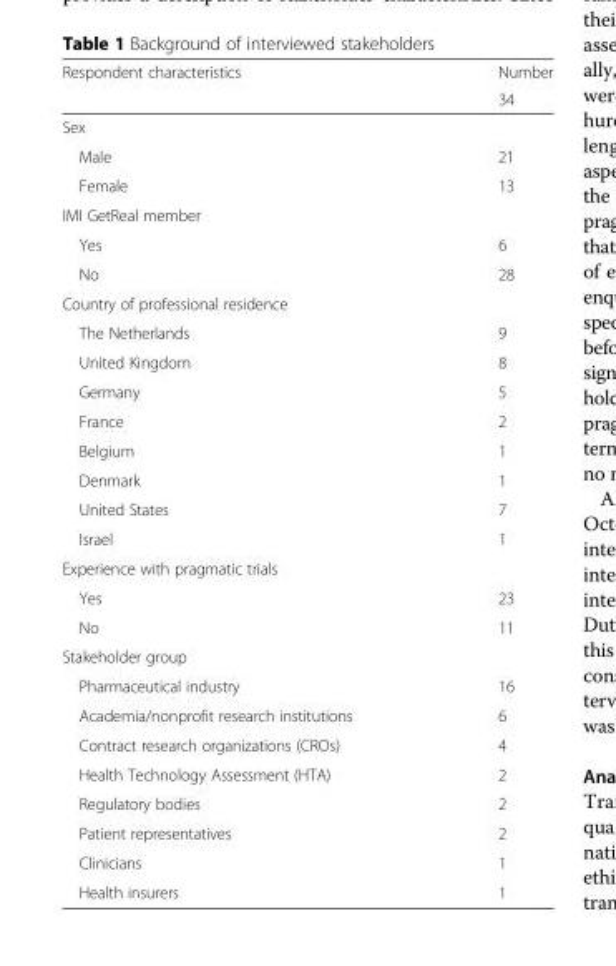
<table><thead><tr><td rowspan="2">Respondent characteristics</td><td rowspan="2">Number 34</td></tr><tr></tr></thead><tbody><tr><td colspan="2">Sex</td></tr><tr><td>Male</td><td>21</td></tr><tr><td>Female</td><td>13</td></tr><tr><td colspan="2">IMI GetReal member</td></tr><tr><td>Yes</td><td>6</td></tr><tr><td>No</td><td>28</td></tr><tr><td colspan="2">Country of professional residence</td></tr><tr><td>The Netherlands</td><td>9</td></tr><tr><td>United Kingdom</td><td>8</td></tr><tr><td>Germany</td><td>5</td></tr><tr><td>France</td><td>2</td></tr><tr><td>Belgium</td><td>1</td></tr><tr><td>Denmark</td><td>1</td></tr><tr><td>United States</td><td>7</td></tr><tr><td>Israel</td><td>1</td></tr><tr><td colspan="2">Experience with pragmatic trials</td></tr><tr><td>Yes</td><td>23</td></tr><tr><td>No</td><td>11</td></tr><tr><td colspan="2">Stakeholder group</td></tr><tr><td>Pharmaceutical industry</td><td>16</td></tr><tr><td>Academia/nonprofit research institutions</td><td>6</td></tr><tr><td>Contract research organizations (CROs)</td><td>4</td></tr><tr><td>Health Technology Assessment (HTA)</td><td>2</td></tr><tr><td>Regulatory bodies</td><td>2</td></tr><tr><td>Patient representatives</td><td>2</td></tr><tr><td>Clinicians</td><td>1</td></tr><tr><td>Health insurers</td><td>1</td></tr></tbody></table>